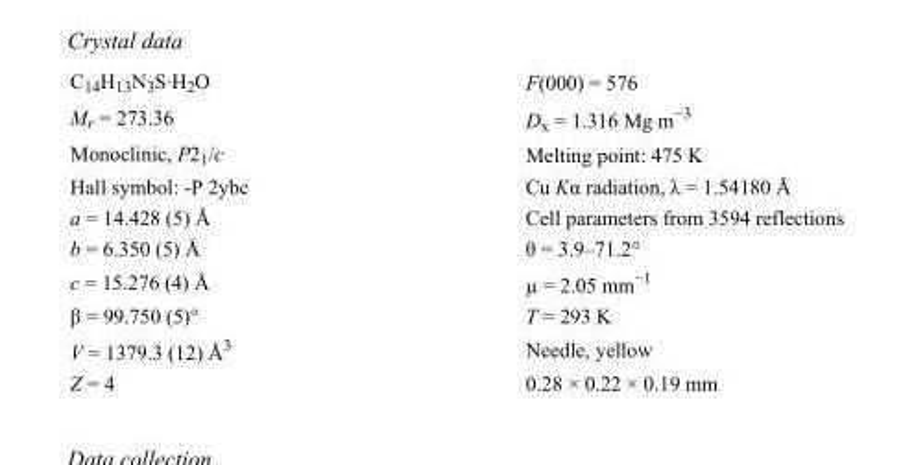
<table><tbody><tr><td>C<sub>14</sub>H<sub>13</sub>N<sub>3</sub>S·H<sub>2</sub>O</td><td>F(000) = 576</td></tr><tr><td>M<sub>r</sub> = 273.36</td><td>D<sub>x</sub> = 1.316 Mg m<sup>−3</sup></td></tr><tr><td>Monoclinic, P2<sub>1</sub>/c</td><td>Melting point: 475 K</td></tr><tr><td>Hall symbol: -P 2ybc</td><td>Cu Kα radiation, λ = 1.54180 Å</td></tr><tr><td>a = 14.428 (5) Å</td><td>Cell parameters from 3594 reflections</td></tr><tr><td>b = 6.350 (5) Å</td><td>θ = 3.9–71.2°</td></tr><tr><td>c = 15.276 (4) Å</td><td>µ = 2.05 mm<sup>−1</sup></td></tr><tr><td>β = 99.750 (5)°</td><td>T = 293 K</td></tr><tr><td>V = 1379.3 (12) Å<sup>3</sup></td><td>Needle, yellow</td></tr><tr><td>Z = 4</td><td>0.28 × 0.22 × 0.19 mm</td></tr></tbody></table>